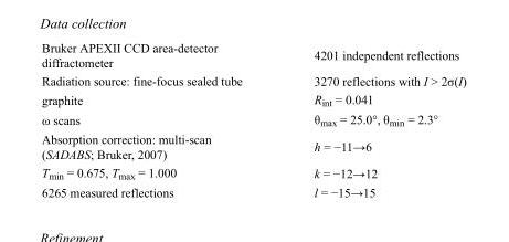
<table><tbody><tr><td>Bruker APEXII CCD area-detector diffractometer</td><td>4201 independent reflections</td></tr><tr><td>Radiation source: fine-focus sealed tube</td><td>3270 reflections with I &gt; 2σ(I)</td></tr><tr><td>graphite</td><td>R<sub>int</sub> = 0.041</td></tr><tr><td>ω scans</td><td>θ<sub>max</sub> = 25.0°, θ<sub>min</sub> = 2.3°</td></tr><tr><td>Absorption correction: multi-scan (SADABS; Bruker, 2007)</td><td>h = −11→6</td></tr><tr><td>T<sub>min</sub> = 0.675, T<sub>max</sub> = 1.000</td><td>k = −12→12</td></tr><tr><td>6265 measured reflections</td><td>l = −15→15</td></tr></tbody></table>